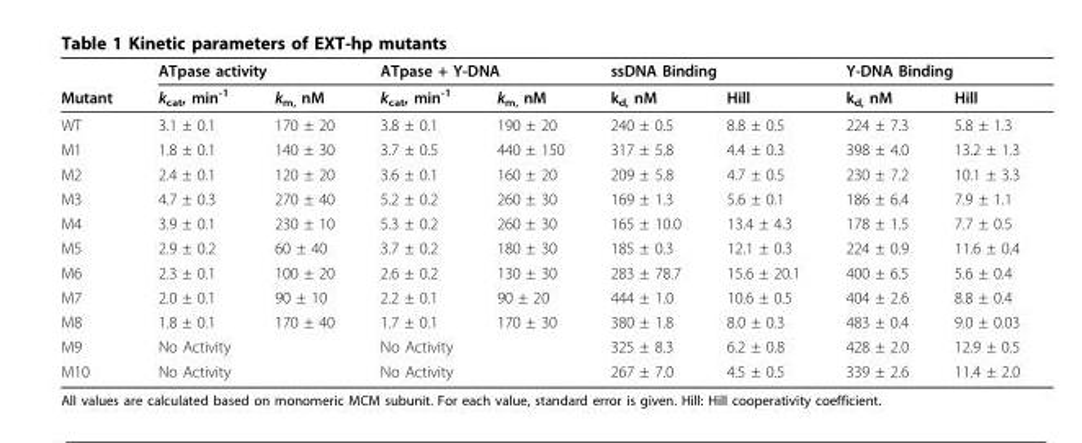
<table><thead><tr><td rowspan="2">Mutant</td><td colspan="2">ATpase activity</td><td colspan="2">ATpase + Y-DNA</td><td colspan="2">ssDNA Binding</td><td colspan="2">Y-DNA Binding</td></tr><tr><td>k<sub>cat</sub>, min<sup>-1</sup></td><td>k<sub>m,</sub> nM</td><td>k<sub>cat</sub>, min<sup>-1</sup></td><td>k<sub>m,</sub> nM</td><td>k<sub>d,</sub> nM</td><td>Hill</td><td>k<sub>d,</sub> nM</td><td>Hill</td></tr></thead><tbody><tr><td>WT</td><td>3.1 ± 0.1</td><td>170 ± 20</td><td>3.8 ± 0.1</td><td>190 ± 20</td><td>240 ± 0.5</td><td>8.8 ± 0.5</td><td>224 ± 7.3</td><td>5.8 ± 1.3</td></tr><tr><td>M1</td><td>1.8 ± 0.1</td><td>140 ± 30</td><td>3.7 ± 0.5</td><td>440 ± 150</td><td>317 ± 5.8</td><td>4.4 ± 0.3</td><td>398 ± 4.0</td><td>13.2 ± 1.3</td></tr><tr><td>M2</td><td>2.4 ± 0.1</td><td>120 ± 20</td><td>3.6 ± 0.1</td><td>160 ± 20</td><td>209 ± 5.8</td><td>4.7 ± 0.5</td><td>230 ± 7.2</td><td>10.1 ± 3.3</td></tr><tr><td>M3</td><td>4.7 ± 0.3</td><td>270 ± 40</td><td>5.2 ± 0.2</td><td>260 ± 30</td><td>169 ± 1.3</td><td>5.6 ± 0.1</td><td>186 ± 6.4</td><td>7.9 ± 1.1</td></tr><tr><td>M4</td><td>3.9 ± 0.1</td><td>230 ± 10</td><td>5.3 ± 0.2</td><td>260 ± 30</td><td>165 ± 10.0</td><td>13.4 ± 4.3</td><td>178 ± 1.5</td><td>7.7 ± 0.5</td></tr><tr><td>M5</td><td>2.9 ± 0.2</td><td>60 ± 40</td><td>3.7 ± 0.2</td><td>180 ± 30</td><td>185 ± 0.3</td><td>12.1 ± 0.3</td><td>224 ± 0.9</td><td>11.6 ± 0.4</td></tr><tr><td>M6</td><td>2.3 ± 0.1</td><td>100 ± 20</td><td>2.6 ± 0.2</td><td>130 ± 30</td><td>283 ± 78.7</td><td>15.6 ± 20.1</td><td>400 ± 6.5</td><td>5.6 ± 0.4</td></tr><tr><td>M7</td><td>2.0 ± 0.1</td><td>90 ± 10</td><td>2.2 ± 0.1</td><td>90 ± 20</td><td>444 ± 1.0</td><td>10.6 ± 0.5</td><td>404 ± 2.6</td><td>8.8 ± 0.4</td></tr><tr><td>M8</td><td>1.8 ± 0.1</td><td>170 ± 40</td><td>1.7 ± 0.1</td><td>170 ± 30</td><td>380 ± 1.8</td><td>8.0 ± 0.3</td><td>483 ± 0.4</td><td>9.0 ± 0.03</td></tr><tr><td>M9</td><td colspan="2">No Activity</td><td colspan="2">No Activity</td><td>325 ± 8.3</td><td>6.2 ± 0.8</td><td>428 ± 2.0</td><td>12.9 ± 0.5</td></tr><tr><td>M10</td><td colspan="2">No Activity</td><td colspan="2">No Activity</td><td>267 ± 7.0</td><td>4.5 ± 0.5</td><td>339 ± 2.6</td><td>11.4 ± 2.0</td></tr></tbody></table>